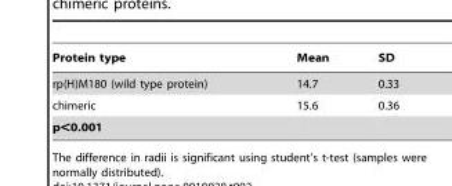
<table><thead><tr><td>Protein type</td><td>Mean</td><td>SD</td></tr></thead><tbody><tr><td>rp(H)M180 (wild type protein)</td><td>14.7</td><td>0.33</td></tr><tr><td>chimeric</td><td>15.6</td><td>0.36</td></tr><tr><td>p&lt;0.001</td><td></td><td></td></tr></tbody></table>